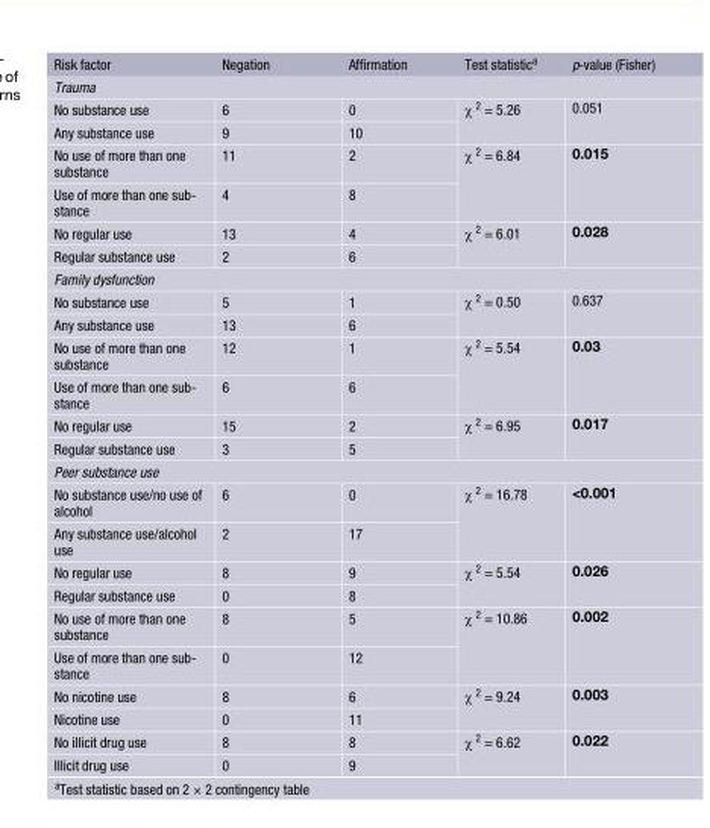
<table><thead><tr><td>Risk factor</td><td>Negation</td><td>Affirmation</td><td>Test statistic<sup>a</sup></td><td>p-value (Fisher)</td></tr></thead><tbody><tr><td colspan="5">Trauma</td></tr><tr><td>No substance use</td><td>6</td><td>0</td><td rowspan="2">χ <sup>2</sup> = 5.26</td><td rowspan="2">0.051</td></tr><tr><td>Any substance use</td><td>9</td><td>10</td></tr><tr><td>No use of more than one substance</td><td>11</td><td>2</td><td rowspan="2">χ <sup>2</sup> = 6.84</td><td rowspan="2">0.015</td></tr><tr><td>Use of more than one sub- stance</td><td>4</td><td>8</td></tr><tr><td>No regular use</td><td>13</td><td>4</td><td rowspan="2">χ <sup>2</sup> = 6.01</td><td rowspan="2">0.028</td></tr><tr><td>Regular substance use</td><td>2</td><td>6</td></tr><tr><td colspan="5">Family dysfunction</td></tr><tr><td>No substance use</td><td>5</td><td>1</td><td rowspan="2">χ <sup>2</sup> = 0.50</td><td rowspan="2">0.637</td></tr><tr><td>Any substance use</td><td>13</td><td>6</td></tr><tr><td>No use of more than one substance</td><td>12</td><td>1</td><td rowspan="2">χ <sup>2</sup> = 5.54</td><td rowspan="2">0.03</td></tr><tr><td>Use of more than one sub- stance</td><td>6</td><td>6</td></tr><tr><td>No regular use</td><td>15</td><td>2</td><td rowspan="2">χ <sup>2</sup> = 6.95</td><td rowspan="2">0.017</td></tr><tr><td>Regular substance use</td><td>3</td><td>5</td></tr><tr><td colspan="5">Peer substance use</td></tr><tr><td>No substance use/no use of alcohol</td><td>6</td><td>0</td><td rowspan="2">χ <sup>2</sup> = 16.78</td><td rowspan="2">&lt;0.001</td></tr><tr><td>Any substance use/alcohol use</td><td>2</td><td>17</td></tr><tr><td>No regular use</td><td>8</td><td>9</td><td rowspan="2">χ <sup>2</sup> = 5.54</td><td rowspan="2">0.026</td></tr><tr><td>Regular substance use</td><td>0</td><td>8</td></tr><tr><td>No use of more than one substance</td><td>8</td><td>5</td><td rowspan="2">χ <sup>2</sup> = 10.86</td><td rowspan="2">0.002</td></tr><tr><td>Use of more than one sub- stance</td><td>0</td><td>12</td></tr><tr><td>No nicotine use</td><td>8</td><td>6</td><td rowspan="2">χ <sup>2</sup> = 9.24</td><td rowspan="2">0.003</td></tr><tr><td>Nicotine use</td><td>0</td><td>11</td></tr><tr><td>No illicit drug use</td><td>8</td><td>8</td><td rowspan="2">χ <sup>2</sup> = 6.62</td><td rowspan="2">0.022</td></tr><tr><td>Illicit drug use</td><td>0</td><td>9</td></tr></tbody></table>